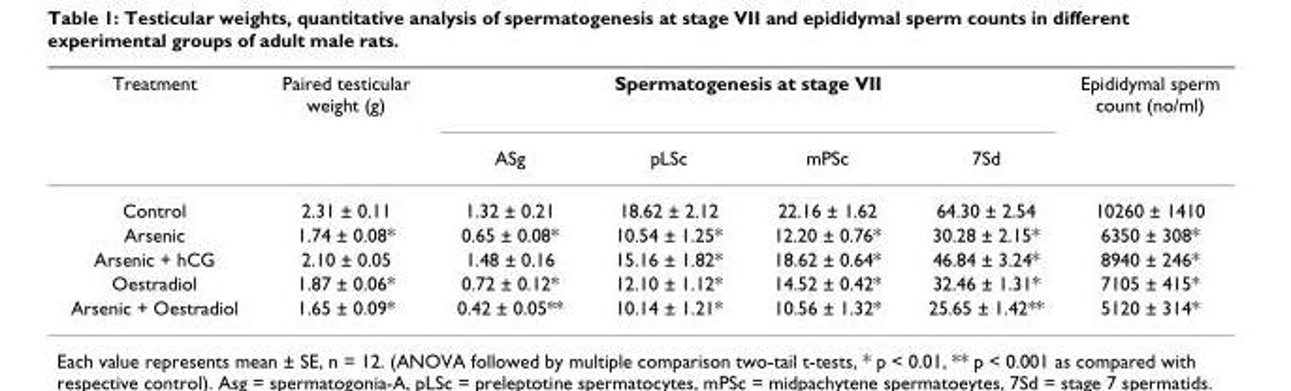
<table><thead><tr><td rowspan="2">Treatment</td><td rowspan="2">Paired testicular weight (g)</td><td colspan="4">Spermatogenesis at stage VII</td><td rowspan="2">Epididymal sperm count (no/ml)</td></tr><tr><td>ASg</td><td>pLSc</td><td>mPSc</td><td>7Sd</td></tr></thead><tbody><tr><td>Control</td><td>2.31 ± 0.11</td><td>1.32 ± 0.21</td><td>18.62 ± 2.12</td><td>22.16 ± 1.62</td><td>64.30 ± 2.54</td><td>10260 ± 1410</td></tr><tr><td>Arsenic</td><td>1.74 ± 0.08*</td><td>0.65 ± 0.08*</td><td>10.54 ± 1.25*</td><td>12.20 ± 0.76*</td><td>30.28 ± 2.15*</td><td>6350 ± 308*</td></tr><tr><td>Arsenic + hCG</td><td>2.10 ± 0.05</td><td>1.48 ± 0.16</td><td>15.16 ± 1.82*</td><td>18.62 ± 0.64*</td><td>46.84 ± 3.24*</td><td>8940 ± 246*</td></tr><tr><td>Oestradiol</td><td>1.87 ± 0.06*</td><td>0.72 ± 0.12*</td><td>12.10 ± 1.12*</td><td>14.52 ± 0.42*</td><td>32.46 ± 1.31*</td><td>7105 ± 415*</td></tr><tr><td>Arsenic + Oestradiol</td><td>1.65 ± 0.09*</td><td>0.42 ± 0.05**</td><td>10.14 ± 1.21*</td><td>10.56 ± 1.32*</td><td>25.65 ± 1.42**</td><td>5120 ± 314*</td></tr></tbody></table>